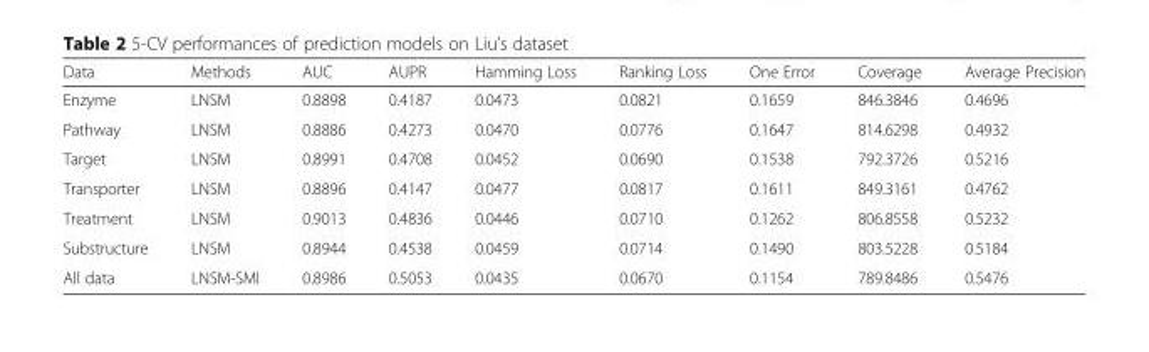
<table><thead><tr><td>Data</td><td>Methods</td><td>AUC</td><td>AUPR</td><td>Hamming Loss</td><td>Ranking Loss</td><td>One Error</td><td>Coverage</td><td>Average Precision</td></tr></thead><tbody><tr><td>Enzyme</td><td>LNSM</td><td>0.8898</td><td>0.4187</td><td>0.0473</td><td>0.0821</td><td>0.1659</td><td>846.3846</td><td>0.4696</td></tr><tr><td>Pathway</td><td>LNSM</td><td>0.8886</td><td>0.4273</td><td>0.0470</td><td>0.0776</td><td>0.1647</td><td>814.6298</td><td>0.4932</td></tr><tr><td>Target</td><td>LNSM</td><td>0.8991</td><td>0.4708</td><td>0.0452</td><td>0.0690</td><td>0.1538</td><td>792.3726</td><td>0.5216</td></tr><tr><td>Transporter</td><td>LNSM</td><td>0.8896</td><td>0.4147</td><td>0.0477</td><td>0.0817</td><td>0.1611</td><td>849.3161</td><td>0.4762</td></tr><tr><td>Treatment</td><td>LNSM</td><td>0.9013</td><td>0.4836</td><td>0.0446</td><td>0.0710</td><td>0.1262</td><td>806.8558</td><td>0.5232</td></tr><tr><td>Substructure</td><td>LNSM</td><td>0.8944</td><td>0.4538</td><td>0.0459</td><td>0.0714</td><td>0.1490</td><td>803.5228</td><td>0.5184</td></tr><tr><td>All data</td><td>LNSM-SMI</td><td>0.8986</td><td>0.5053</td><td>0.0435</td><td>0.0670</td><td>0.1154</td><td>789.8486</td><td>0.5476</td></tr></tbody></table>